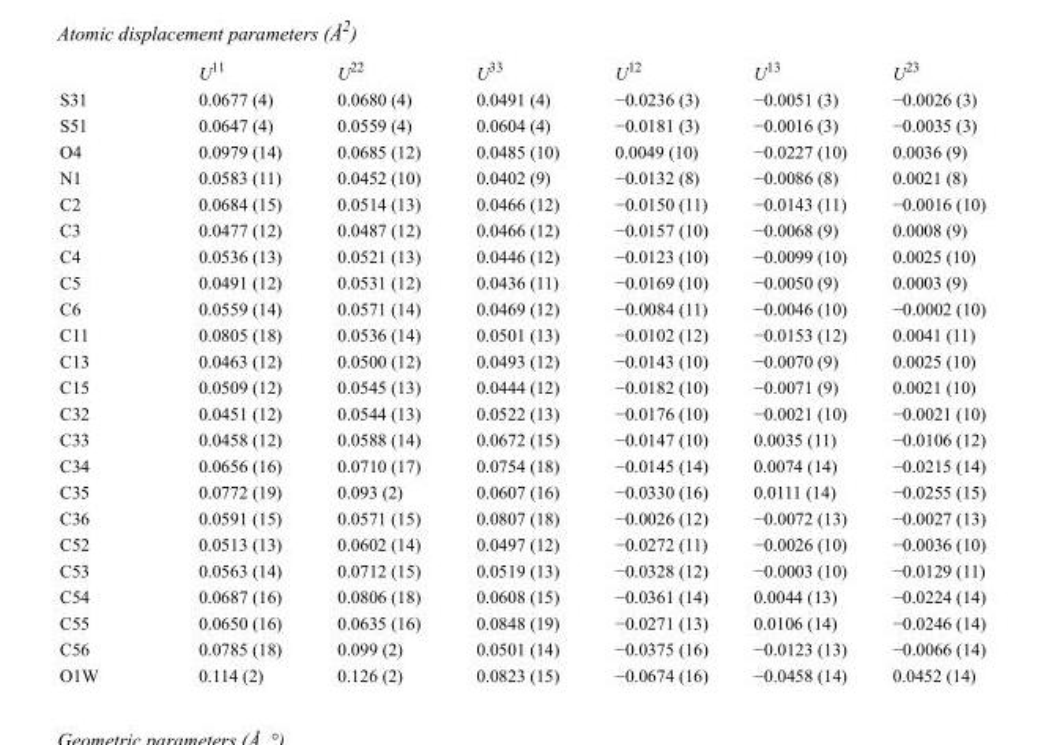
<table><thead><tr><td></td><td>U<sup>11</sup></td><td>U<sup>22</sup></td><td>U<sup>33</sup></td><td>U<sup>12</sup></td><td>U<sup>13</sup></td><td>U<sup>23</sup></td></tr></thead><tbody><tr><td>S31</td><td>0.0677 (4)</td><td>0.0680 (4)</td><td>0.0491 (4)</td><td>−0.0236 (3)</td><td>−0.0051 (3)</td><td>−0.0026 (3)</td></tr><tr><td>S51</td><td>0.0647 (4)</td><td>0.0559 (4)</td><td>0.0604 (4)</td><td>−0.0181 (3)</td><td>−0.0016 (3)</td><td>−0.0035 (3)</td></tr><tr><td>O4</td><td>0.0979 (14)</td><td>0.0685 (12)</td><td>0.0485 (10)</td><td>0.0049 (10)</td><td>−0.0227 (10)</td><td>0.0036 (9)</td></tr><tr><td>N1</td><td>0.0583 (11)</td><td>0.0452 (10)</td><td>0.0402 (9)</td><td>−0.0132 (8)</td><td>−0.0086 (8)</td><td>0.0021 (8)</td></tr><tr><td>C2</td><td>0.0684 (15)</td><td>0.0514 (13)</td><td>0.0466 (12)</td><td>−0.0150 (11)</td><td>−0.0143 (11)</td><td>−0.0016 (10)</td></tr><tr><td>C3</td><td>0.0477 (12)</td><td>0.0487 (12)</td><td>0.0466 (12)</td><td>−0.0157 (10)</td><td>−0.0068 (9)</td><td>0.0008 (9)</td></tr><tr><td>C4</td><td>0.0536 (13)</td><td>0.0521 (13)</td><td>0.0446 (12)</td><td>−0.0123 (10)</td><td>−0.0099 (10)</td><td>0.0025 (10)</td></tr><tr><td>C5</td><td>0.0491 (12)</td><td>0.0531 (12)</td><td>0.0436 (11)</td><td>−0.0169 (10)</td><td>−0.0050 (9)</td><td>0.0003 (9)</td></tr><tr><td>C6</td><td>0.0559 (14)</td><td>0.0571 (14)</td><td>0.0469 (12)</td><td>−0.0084 (11)</td><td>−0.0046 (10)</td><td>−0.0002 (10)</td></tr><tr><td>C11</td><td>0.0805 (18)</td><td>0.0536 (14)</td><td>0.0501 (13)</td><td>−0.0102 (12)</td><td>−0.0153 (12)</td><td>0.0041 (11)</td></tr><tr><td>C13</td><td>0.0463 (12)</td><td>0.0500 (12)</td><td>0.0493 (12)</td><td>−0.0143 (10)</td><td>−0.0070 (9)</td><td>0.0025 (10)</td></tr><tr><td>C15</td><td>0.0509 (12)</td><td>0.0545 (13)</td><td>0.0444 (12)</td><td>−0.0182 (10)</td><td>−0.0071 (9)</td><td>0.0021 (10)</td></tr><tr><td>C32</td><td>0.0451 (12)</td><td>0.0544 (13)</td><td>0.0522 (13)</td><td>−0.0176 (10)</td><td>−0.0021 (10)</td><td>−0.0021 (10)</td></tr><tr><td>C33</td><td>0.0458 (12)</td><td>0.0588 (14)</td><td>0.0672 (15)</td><td>−0.0147 (10)</td><td>0.0035 (11)</td><td>−0.0106 (12)</td></tr><tr><td>C34</td><td>0.0656 (16)</td><td>0.0710 (17)</td><td>0.0754 (18)</td><td>−0.0145 (14)</td><td>0.0074 (14)</td><td>−0.0215 (14)</td></tr><tr><td>C35</td><td>0.0772 (19)</td><td>0.093 (2)</td><td>0.0607 (16)</td><td>−0.0330 (16)</td><td>0.0111 (14)</td><td>−0.0255 (15)</td></tr><tr><td>C36</td><td>0.0591 (15)</td><td>0.0571 (15)</td><td>0.0807 (18)</td><td>−0.0026 (12)</td><td>−0.0072 (13)</td><td>−0.0027 (13)</td></tr><tr><td>C52</td><td>0.0513 (13)</td><td>0.0602 (14)</td><td>0.0497 (12)</td><td>−0.0272 (11)</td><td>−0.0026 (10)</td><td>−0.0036 (10)</td></tr><tr><td>C53</td><td>0.0563 (14)</td><td>0.0712 (15)</td><td>0.0519 (13)</td><td>−0.0328 (12)</td><td>−0.0003 (10)</td><td>−0.0129 (11)</td></tr><tr><td>C54</td><td>0.0687 (16)</td><td>0.0806 (18)</td><td>0.0608 (15)</td><td>−0.0361 (14)</td><td>0.0044 (13)</td><td>−0.0224 (14)</td></tr><tr><td>C55</td><td>0.0650 (16)</td><td>0.0635 (16)</td><td>0.0848 (19)</td><td>−0.0271 (13)</td><td>0.0106 (14)</td><td>−0.0246 (14)</td></tr><tr><td>C56</td><td>0.0785 (18)</td><td>0.099 (2)</td><td>0.0501 (14)</td><td>−0.0375 (16)</td><td>−0.0123 (13)</td><td>−0.0066 (14)</td></tr><tr><td>O1W</td><td>0.114 (2)</td><td>0.126 (2)</td><td>0.0823 (15)</td><td>−0.0674 (16)</td><td>−0.0458 (14)</td><td>0.0452 (14)</td></tr></tbody></table>